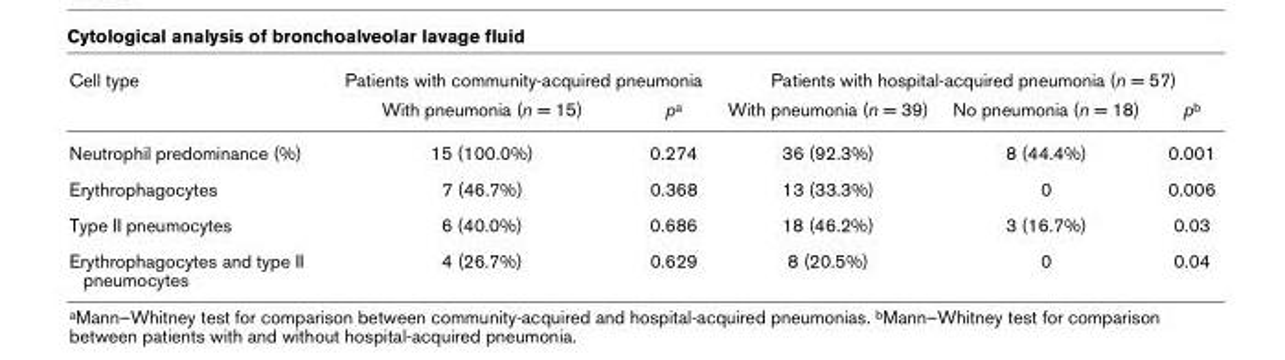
<table><thead><tr><td rowspan="2">Cell type</td><td colspan="2">Patients with community-acquired pneumonia</td><td colspan="3">Patients with hospital-acquired pneumonia (n = 57)</td></tr><tr><td>With pneumonia (n = 15)</td><td>pa</td><td>With pneumonia (n = 39)</td><td>No pneumonia (n = 18)</td><td>pb</td></tr></thead><tbody><tr><td>Neutrophil predominance (%)</td><td>15 (100.0%)</td><td>0.274</td><td>36 (92.3%)</td><td>8 (44.4%)</td><td>0.001</td></tr><tr><td>Erythrophagocytes</td><td>7 (46.7%)</td><td>0.368</td><td>13 (33.3%)</td><td>0</td><td>0.006</td></tr><tr><td>Type II pneumocytes</td><td>6 (40.0%)</td><td>0.686</td><td>18 (46.2%)</td><td>3 (16.7%)</td><td>0.03</td></tr><tr><td>Erythrophagocytes and type II pneumocytes</td><td>4 (26.7%)</td><td>0.629</td><td>8 (20.5%)</td><td>0</td><td>0.04</td></tr></tbody></table>